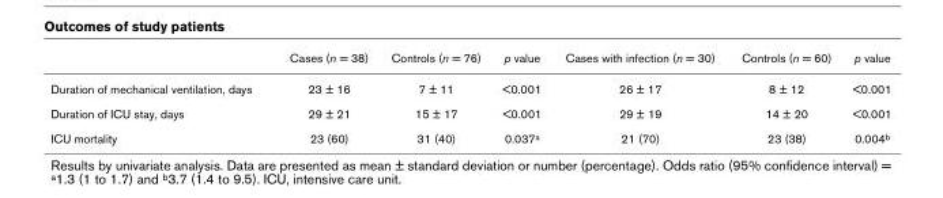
<table><thead><tr><td></td><td>Cases (n = 38)</td><td>Controls (n = 76)</td><td>p value</td><td>Cases with infection (n = 30)</td><td>Controls (n = 60)</td><td>p value</td></tr></thead><tbody><tr><td>Duration of mechanical ventilation, days</td><td>23 ± 16</td><td>7 ± 11</td><td>&lt;0.001</td><td>26 ± 17</td><td>8 ± 12</td><td>&lt;0.001</td></tr><tr><td>Duration of ICU stay, days</td><td>29 ± 21</td><td>15 ± 17</td><td>&lt;0.001</td><td>29 ± 19</td><td>14 ± 20</td><td>&lt;0.001</td></tr><tr><td>ICU mortality</td><td>23 (60)</td><td>31 (40)</td><td>0.037a</td><td>21 (70)</td><td>23 (38)</td><td>0.004b</td></tr></tbody></table>